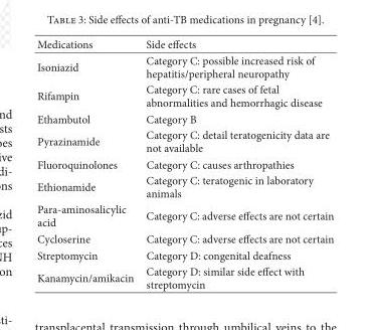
<table><thead><tr><td>Medications</td><td>Side effects</td></tr></thead><tbody><tr><td>Isoniazid</td><td>Category C: possible increased risk of hepatitis/peripheral neuropathy</td></tr><tr><td>Rifampin</td><td>Category C: rare cases of fetal abnormalities and hemorrhagic disease</td></tr><tr><td>Ethambutol</td><td>Category B</td></tr><tr><td>Pyrazinamide</td><td>Category C: detail teratogenicity data are not available</td></tr><tr><td>Fluoroquinolones</td><td>Category C: causes arthropathies</td></tr><tr><td>Ethionamide</td><td>Category C: teratogenic in laboratory animals</td></tr><tr><td>Para-aminosalicylic acid</td><td>Category C: adverse effects are not certain</td></tr><tr><td>Cycloserine</td><td>Category C: adverse effects are not certain</td></tr><tr><td>Streptomycin</td><td>Category D: congenital deafness</td></tr><tr><td>Kanamycin/amikacin</td><td>Category D: similar side effect with streptomycin</td></tr></tbody></table>